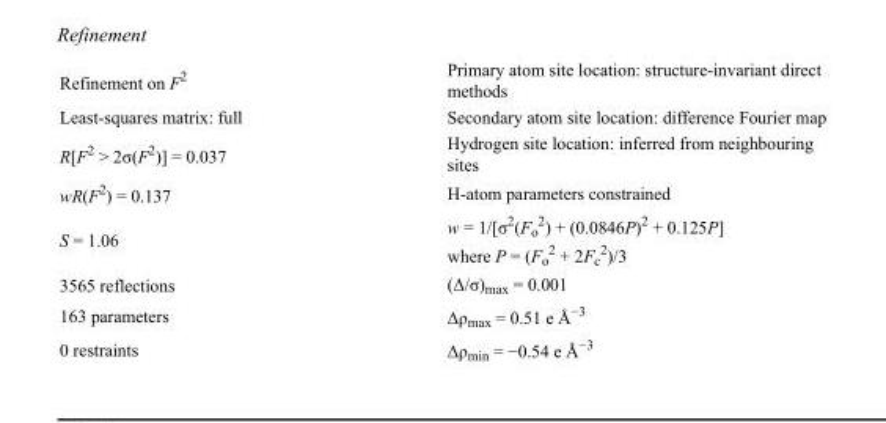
<table><tbody><tr><td>Refinement on F<sup>2</sup></td><td>Primary atom site location: structure-invariant direct methods</td></tr><tr><td>Least-squares matrix: full</td><td>Secondary atom site location: difference Fourier map</td></tr><tr><td>R[F<sup>2</sup> &gt; 2σ(F<sup>2</sup>)] = 0.037</td><td>Hydrogen site location: inferred from neighbouring sites</td></tr><tr><td>wR(F<sup>2</sup>) = 0.137</td><td>H-atom parameters constrained</td></tr><tr><td>S = 1.06</td><td>w = 1/[σ<sup>2</sup>(F<sub>o</sub> <sup>2</sup>) + (0.0846P)<sup>2</sup> + 0.125P] where P = (F<sub>o</sub> <sup>2</sup> + 2F<sub>c</sub> <sup>2</sup>)/3</td></tr><tr><td>3565 reflections</td><td>(Δ/σ)<sub>max</sub> = 0.001</td></tr><tr><td>163 parameters</td><td>Δρ<sub>max</sub> = 0.51 e Å<sup>−3</sup></td></tr><tr><td>0 restraints</td><td>Δρ<sub>min</sub> = −0.54 e Å<sup>−3</sup></td></tr></tbody></table>